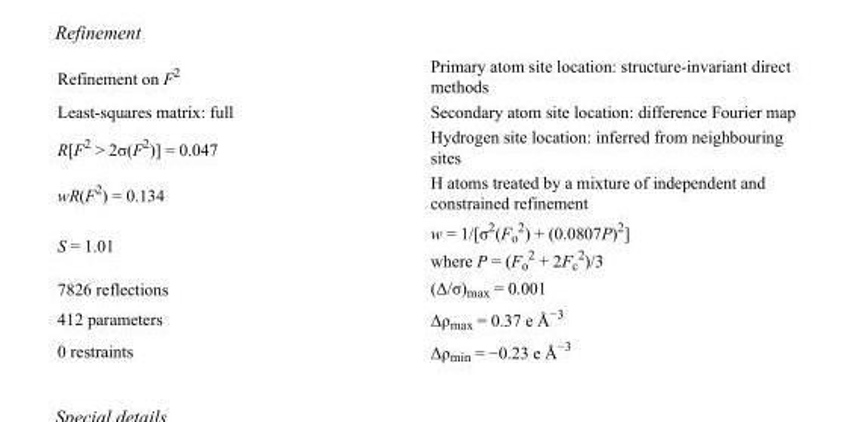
<table><tbody><tr><td>Refinement on F<sup>2</sup></td><td>Primary atom site location: structure-invariant direct methods</td></tr><tr><td>Least-squares matrix: full</td><td>Secondary atom site location: difference Fourier map</td></tr><tr><td>R[F<sup>2</sup> &gt; 2σ(F<sup>2</sup>)] = 0.047</td><td>Hydrogen site location: inferred from neighbouring sites</td></tr><tr><td>wR(F<sup>2</sup>) = 0.134</td><td>H atoms treated by a mixture of independent and constrained refinement</td></tr><tr><td>S = 1.01</td><td>w = 1/[σ<sup>2</sup>(F<sub>o</sub> <sup>2</sup>) + (0.0807P)<sup>2</sup>] where P = (F<sub>o</sub> <sup>2</sup> + 2F<sub>c</sub> <sup>2</sup>)/3</td></tr><tr><td>7826 reflections</td><td>(Δ/σ)<sub>max</sub> = 0.001</td></tr><tr><td>412 parameters</td><td>Δρ<sub>max</sub> = 0.37 e Å<sup>−3</sup></td></tr><tr><td>0 restraints</td><td>Δρ<sub>min</sub> = −0.23 e Å<sup>−3</sup></td></tr></tbody></table>